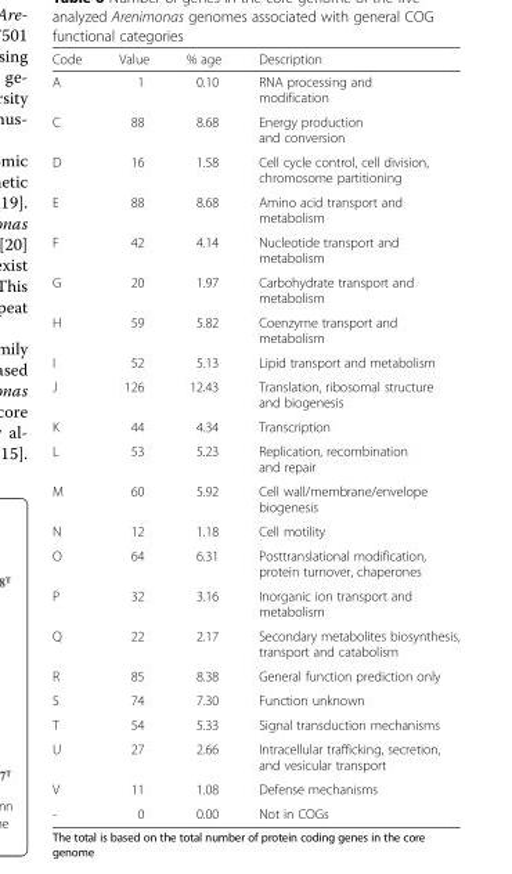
<table><thead><tr><td>Code</td><td>Value</td><td>% age</td><td>Description</td></tr></thead><tbody><tr><td>A</td><td>1</td><td>0.10</td><td>RNA processing and modification</td></tr><tr><td>C</td><td>88</td><td>8.68</td><td>Energy production and conversion</td></tr><tr><td>D</td><td>16</td><td>1.58</td><td>Cell cycle control, cell division, chromosome partitioning</td></tr><tr><td>E</td><td>88</td><td>8.68</td><td>Amino acid transport and metabolism</td></tr><tr><td>F</td><td>42</td><td>4.14</td><td>Nucleotide transport and metabolism</td></tr><tr><td>G</td><td>20</td><td>1.97</td><td>Carbohydrate transport and metabolism</td></tr><tr><td>H</td><td>59</td><td>5.82</td><td>Coenzyme transport and metabolism</td></tr><tr><td>I</td><td>52</td><td>5.13</td><td>Lipid transport and metabolism</td></tr><tr><td>J</td><td>126</td><td>12.43</td><td>Translation, ribosomal structure and biogenesis</td></tr><tr><td>K</td><td>44</td><td>4.34</td><td>Transcription</td></tr><tr><td>L</td><td>53</td><td>5.23</td><td>Replication, recombination and repair</td></tr><tr><td>M</td><td>60</td><td>5.92</td><td>Cell wall/membrane/envelope biogenesis</td></tr><tr><td>N</td><td>12</td><td>1.18</td><td>Cell motility</td></tr><tr><td>O</td><td>64</td><td>6.31</td><td>Posttranslational modification, protein turnover, chaperones</td></tr><tr><td>P</td><td>32</td><td>3.16</td><td>Inorganic ion transport and metabolism</td></tr><tr><td>Q</td><td>22</td><td>2.17</td><td>Secondary metabolites biosynthesis, transport and catabolism</td></tr><tr><td>R</td><td>85</td><td>8.38</td><td>General function prediction only</td></tr><tr><td>S</td><td>74</td><td>7.30</td><td>Function unknown</td></tr><tr><td>T</td><td>54</td><td>5.33</td><td>Signal transduction mechanisms</td></tr><tr><td>U</td><td>27</td><td>2.66</td><td>Intracellular trafficking, secretion, and vesicular transport</td></tr><tr><td>V</td><td>11</td><td>1.08</td><td>Defense mechanisms</td></tr><tr><td>-</td><td>0</td><td>0.00</td><td>Not in COGs</td></tr></tbody></table>